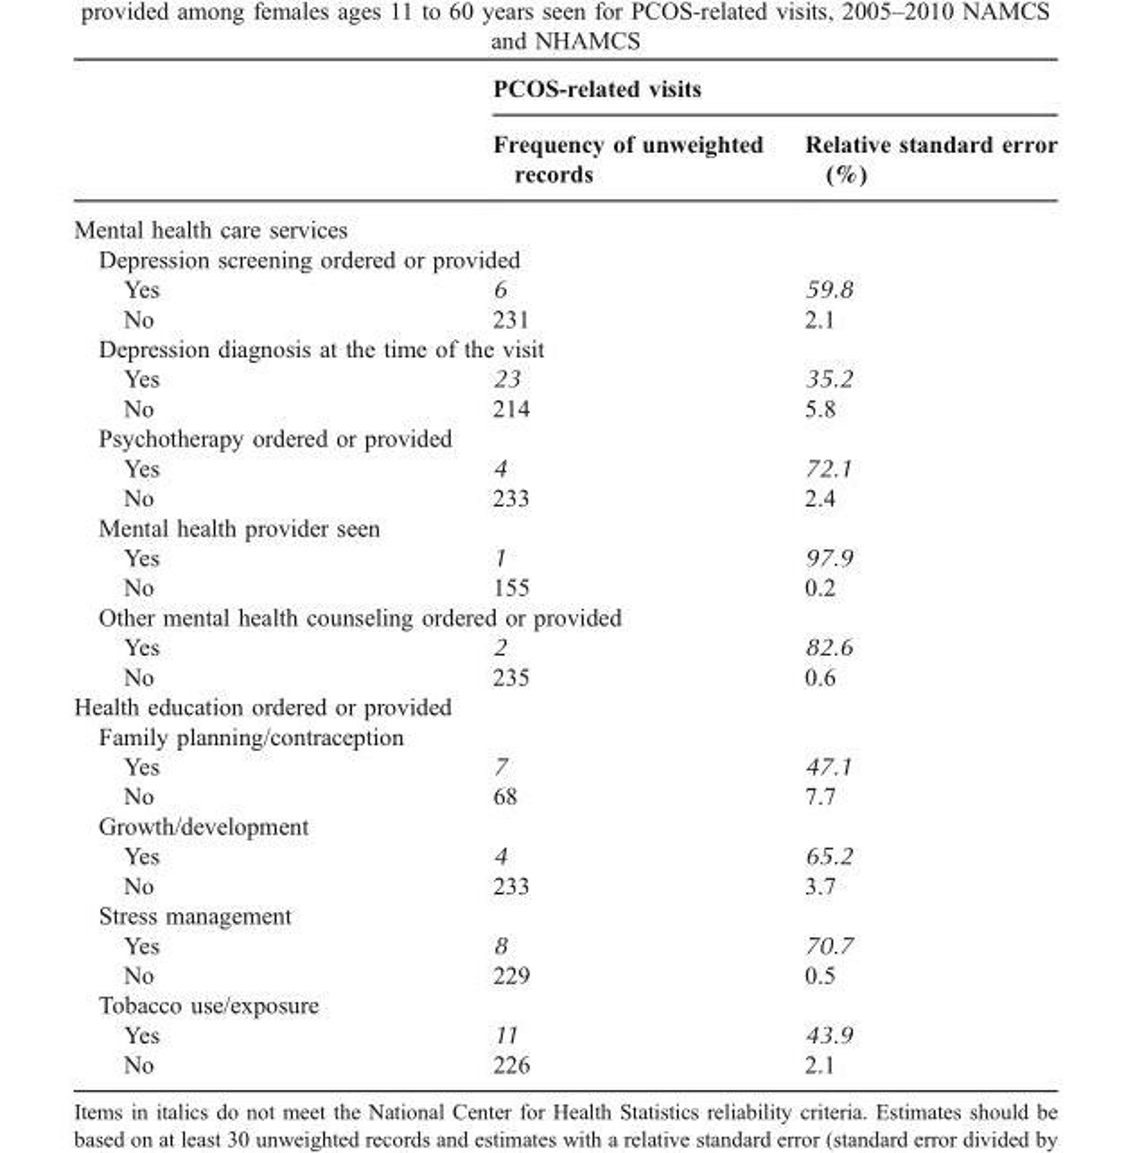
<table><thead><tr><td rowspan="2"></td><td colspan="2">PCOS-related visits</td></tr><tr><td>Frequency of unweighted records</td><td>Relative standard error (%)</td></tr></thead><tbody><tr><td colspan="3">Mental health care services</td></tr><tr><td colspan="3">Depression screening ordered or provided</td></tr><tr><td>Yes</td><td>6</td><td>59.8</td></tr><tr><td>No</td><td>231</td><td>2.1</td></tr><tr><td colspan="3">Depression diagnosis at the time of the visit</td></tr><tr><td>Yes</td><td>23</td><td>35.2</td></tr><tr><td>No</td><td>214</td><td>5.8</td></tr><tr><td colspan="3">Psychotherapy ordered or provided</td></tr><tr><td>Yes</td><td>4</td><td>72.1</td></tr><tr><td>No</td><td>233</td><td>2.4</td></tr><tr><td colspan="3">Mental health provider seen</td></tr><tr><td>Yes</td><td>1</td><td>97.9</td></tr><tr><td>No</td><td>155</td><td>0.2</td></tr><tr><td colspan="3">Other mental health counseling ordered or provided</td></tr><tr><td>Yes</td><td>2</td><td>82.6</td></tr><tr><td>No</td><td>235</td><td>0.6</td></tr><tr><td colspan="3">Health education ordered or provided</td></tr><tr><td colspan="3">Family planning/contraception</td></tr><tr><td>Yes</td><td>7</td><td>47.1</td></tr><tr><td>No</td><td>68</td><td>7.7</td></tr><tr><td colspan="3">Growth/development</td></tr><tr><td>Yes</td><td>4</td><td>65.2</td></tr><tr><td>No</td><td>233</td><td>3.7</td></tr><tr><td colspan="3">Stress management</td></tr><tr><td>Yes</td><td>8</td><td>70.7</td></tr><tr><td>No</td><td>229</td><td>0.5</td></tr><tr><td colspan="3">Tobacco use/exposure</td></tr><tr><td>Yes</td><td>11</td><td>43.9</td></tr><tr><td>No</td><td>226</td><td>2.1</td></tr></tbody></table>